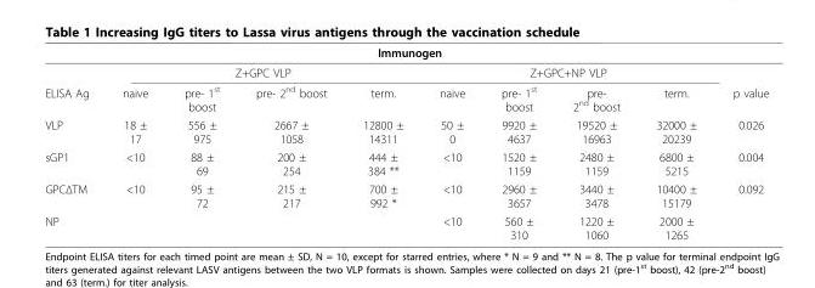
<table><thead><tr><td rowspan="3">ELISA Ag</td><td colspan="8">Immunogen</td><td rowspan="3">p value</td></tr><tr><td colspan="4">Z+GPC VLP</td><td colspan="4">Z+GPC+NP VLP</td></tr><tr><td>naive</td><td>pre- 1<sup>st</sup> boost</td><td>pre- 2<sup>nd</sup> boost</td><td>term.</td><td>naive</td><td>pre- 1<sup>st</sup> boost</td><td>pre- 2<sup>nd</sup> boost</td><td>term.</td></tr></thead><tbody><tr><td>VLP</td><td>18 ± 17</td><td>556 ± 975</td><td>2667 ± 1058</td><td>12800 ± 14311</td><td>50 ± 0</td><td>9920 ± 4637</td><td>19520 ± 16963</td><td>32000 ± 20239</td><td>0.026</td></tr><tr><td>sGP1</td><td>&lt;10</td><td>88 ± 69</td><td>200 ± 254</td><td>444 ± 384 **</td><td>&lt;10</td><td>1520 ± 1159</td><td>2480 ± 1159</td><td>6800 ± 5215</td><td>0.004</td></tr><tr><td>GPCΔTM</td><td>&lt;10</td><td>95 ± 72</td><td>215 ± 217</td><td>700 ± 992 *</td><td>&lt;10</td><td>2960 ± 3657</td><td>3440 ± 3478</td><td>10400 ± 15179</td><td>0.092</td></tr><tr><td>NP</td><td></td><td></td><td></td><td></td><td>&lt;10</td><td>560 ± 310</td><td>1220 ± 1060</td><td>2000 ± 1265</td><td></td></tr></tbody></table>